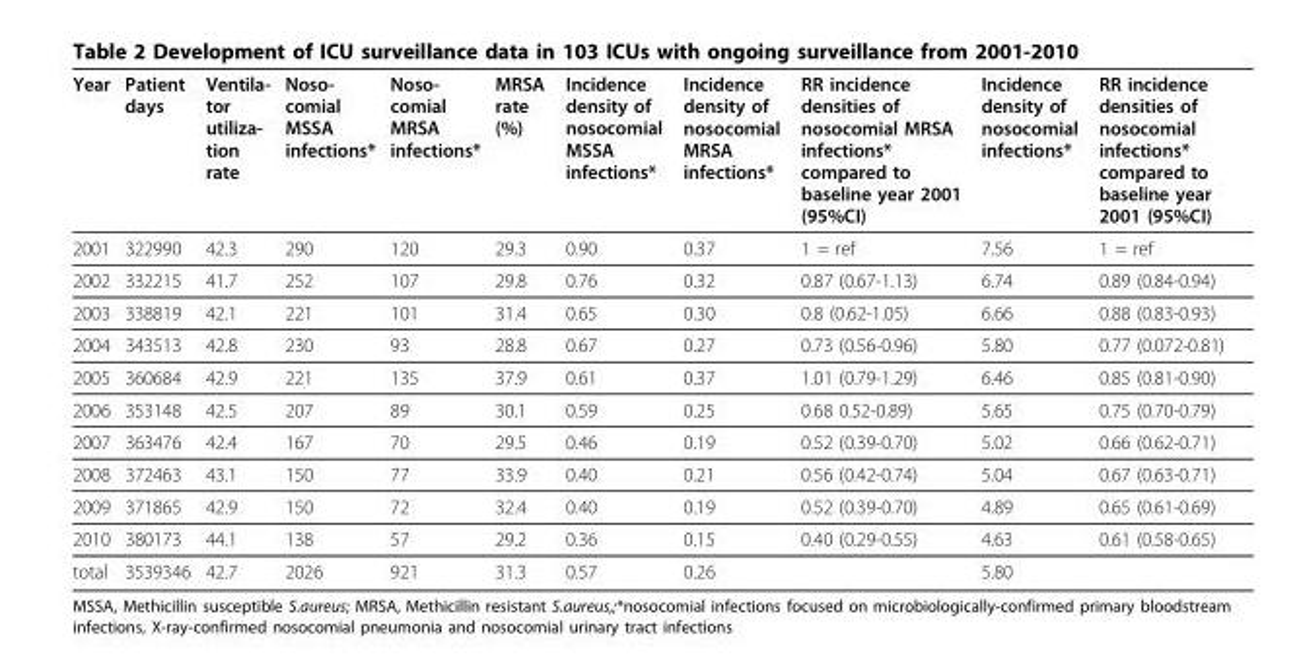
<table><thead><tr><td>Year</td><td>Patient days</td><td>Ventila- tor utiliza- tion rate</td><td>Noso- comial MSSA infections*</td><td>Noso- comial MRSA infections*</td><td>MRSA rate (%)</td><td>Incidence density of nosocomial MSSA infections*</td><td>Incidence density of nosocomial MRSA infections*</td><td>RR incidence densities of nosocomial MRSA infections* compared to baseline year 2001 (95%CI)</td><td>Incidence density of nosocomial infections*</td><td>RR incidence densities of nosocomial infections* compared to baseline year 2001 (95%CI)</td></tr></thead><tbody><tr><td>2001</td><td>322990</td><td>42.3</td><td>290</td><td>120</td><td>29.3</td><td>0.90</td><td>0.37</td><td>1 = ref</td><td>7.56</td><td>1 = ref</td></tr><tr><td>2002</td><td>332215</td><td>41.7</td><td>252</td><td>107</td><td>29.8</td><td>0.76</td><td>0.32</td><td>0.87 (0.67-1.13)</td><td>6.74</td><td>0.89 (0.84-0.94)</td></tr><tr><td>2003</td><td>338819</td><td>42.1</td><td>221</td><td>101</td><td>31.4</td><td>0.65</td><td>0.30</td><td>0.8 (0.62-1.05)</td><td>6.66</td><td>0.88 (0.83-0.93)</td></tr><tr><td>2004</td><td>343513</td><td>42.8</td><td>230</td><td>93</td><td>28.8</td><td>0.67</td><td>0.27</td><td>0.73 (0.56-0.96)</td><td>5.80</td><td>0.77 (0.072-0.81)</td></tr><tr><td>2005</td><td>360684</td><td>42.9</td><td>221</td><td>135</td><td>37.9</td><td>0.61</td><td>0.37</td><td>1.01 (0.79-1.29)</td><td>6.46</td><td>0.85 (0.81-0.90)</td></tr><tr><td>2006</td><td>353148</td><td>42.5</td><td>207</td><td>89</td><td>30.1</td><td>0.59</td><td>0.25</td><td>0.68 0.52-0.89)</td><td>5.65</td><td>0.75 (0.70-0.79)</td></tr><tr><td>2007</td><td>363476</td><td>42.4</td><td>167</td><td>70</td><td>29.5</td><td>0.46</td><td>0.19</td><td>0.52 (0.39-0.70)</td><td>5.02</td><td>0.66 (0.62-0.71)</td></tr><tr><td>2008</td><td>372463</td><td>43.1</td><td>150</td><td>77</td><td>33.9</td><td>0.40</td><td>0.21</td><td>0.56 (0.42-0.74)</td><td>5.04</td><td>0.67 (0.63-0.71)</td></tr><tr><td>2009</td><td>371865</td><td>42.9</td><td>150</td><td>72</td><td>32.4</td><td>0.40</td><td>0.19</td><td>0.52 (0.39-0.70)</td><td>4.89</td><td>0.65 (0.61-0.69)</td></tr><tr><td>2010</td><td>380173</td><td>44.1</td><td>138</td><td>57</td><td>29.2</td><td>0.36</td><td>0.15</td><td>0.40 (0.29-0.55)</td><td>4.63</td><td>0.61 (0.58-0.65)</td></tr><tr><td>total</td><td>3539346</td><td>42.7</td><td>2026</td><td>921</td><td>31.3</td><td>0.57</td><td>0.26</td><td></td><td>5.80</td><td></td></tr></tbody></table>